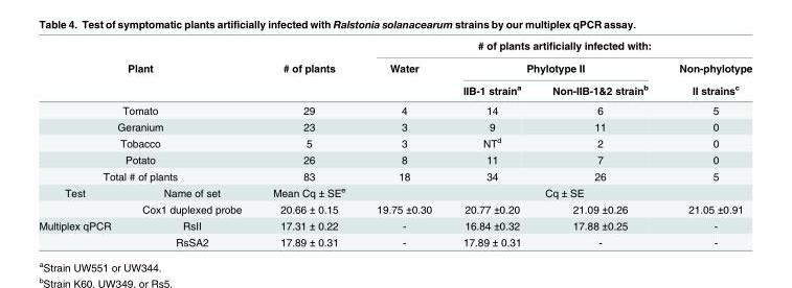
<table><thead><tr><td></td><td></td><td rowspan="3"># of plants</td><td colspan="4"># of plants artificially infected with:</td></tr><tr><td colspan="2">Plant</td><td rowspan="2">Water</td><td colspan="2">Phylotype II</td><td rowspan="2">Non-phylotype II strains<sup>c</sup></td></tr><tr><td></td><td></td><td>IIB-1 strain<sup>a</sup></td><td>Non-IIB-1&amp;2 strain<sup>b</sup></td></tr></thead><tbody><tr><td colspan="2">Tomato</td><td>29</td><td>4</td><td>14</td><td>6</td><td>5</td></tr><tr><td colspan="2">Geranium</td><td>23</td><td>3</td><td>9</td><td>11</td><td>0</td></tr><tr><td colspan="2">Tobacco</td><td>5</td><td>3</td><td>NT<sup>d</sup></td><td>2</td><td>0</td></tr><tr><td colspan="2">Potato</td><td>26</td><td>8</td><td>11</td><td>7</td><td>0</td></tr><tr><td colspan="2">Total # of plants</td><td>83</td><td>18</td><td>34</td><td>26</td><td>5</td></tr><tr><td rowspan="2">Test</td><td>Name of set</td><td>Mean Cq ± SE<sup>e</sup></td><td colspan="4">Cq ± SE</td></tr><tr><td>Cox1 duplexed probe</td><td>20.66 ± 0.15</td><td>19.75 ±0.30</td><td>20.77 ±0.20</td><td>21.09 ±0.26</td><td>21.05 ±0.91</td></tr><tr><td rowspan="2">Multiplex qPCR</td><td>RsII</td><td>17.31 ± 0.22</td><td>-</td><td>16.84 ±0.32</td><td>17.88 ±0.25</td><td>-</td></tr><tr><td>RsSA2</td><td>17.89 ± 0.31</td><td>-</td><td>17.89 ± 0.31</td><td>-</td><td>-</td></tr></tbody></table>